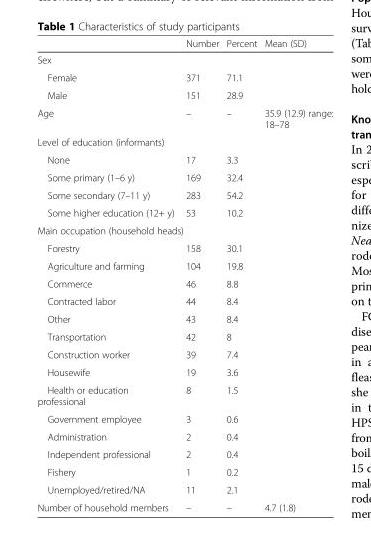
<table><thead><tr><td></td><td>Number</td><td>Percent</td><td>Mean (SD)</td></tr></thead><tbody><tr><td colspan="4">Sex</td></tr><tr><td>Female</td><td>371</td><td>71.1</td><td></td></tr><tr><td>Male</td><td>151</td><td>28.9</td><td></td></tr><tr><td>Age</td><td>–</td><td>–</td><td>35.9 (12.9) range: 18–78</td></tr><tr><td colspan="4">Level of education (informants)</td></tr><tr><td>None</td><td>17</td><td>3.3</td><td></td></tr><tr><td>Some primary (1–6 y)</td><td>169</td><td>32.4</td><td></td></tr><tr><td>Some secondary (7–11 y)</td><td>283</td><td>54.2</td><td></td></tr><tr><td>Some higher education (12+ y)</td><td>53</td><td>10.2</td><td></td></tr><tr><td colspan="4">Main occupation (household heads)</td></tr><tr><td>Forestry</td><td>158</td><td>30.1</td><td></td></tr><tr><td>Agriculture and farming</td><td>104</td><td>19.8</td><td></td></tr><tr><td>Commerce</td><td>46</td><td>8.8</td><td></td></tr><tr><td>Contracted labor</td><td>44</td><td>8.4</td><td></td></tr><tr><td>Other</td><td>43</td><td>8.4</td><td></td></tr><tr><td>Transportation</td><td>42</td><td>8</td><td></td></tr><tr><td>Construction worker</td><td>39</td><td>7.4</td><td></td></tr><tr><td>Housewife</td><td>19</td><td>3.6</td><td></td></tr><tr><td>Health or education professional</td><td>8</td><td>1.5</td><td></td></tr><tr><td>Government employee</td><td>3</td><td>0.6</td><td></td></tr><tr><td>Administration</td><td>2</td><td>0.4</td><td></td></tr><tr><td>Independent professional</td><td>2</td><td>0.4</td><td></td></tr><tr><td>Fishery</td><td>1</td><td>0.2</td><td></td></tr><tr><td>Unemployed/retired/NA</td><td>11</td><td>2.1</td><td></td></tr><tr><td>Number of household members</td><td>–</td><td>–</td><td>4.7 (1.8)</td></tr></tbody></table>